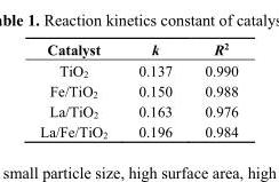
<table><thead><tr><td>Catalyst</td><td>k</td><td>R<sup>2</sup></td></tr></thead><tbody><tr><td>TiO<sub>2</sub></td><td>0.137</td><td>0.990</td></tr><tr><td>Fe/TiO<sub>2</sub></td><td>0.150</td><td>0.988</td></tr><tr><td>La/TiO<sub>2</sub></td><td>0.163</td><td>0.976</td></tr><tr><td>La/Fe/TiO<sub>2</sub></td><td>0.196</td><td>0.984</td></tr></tbody></table>